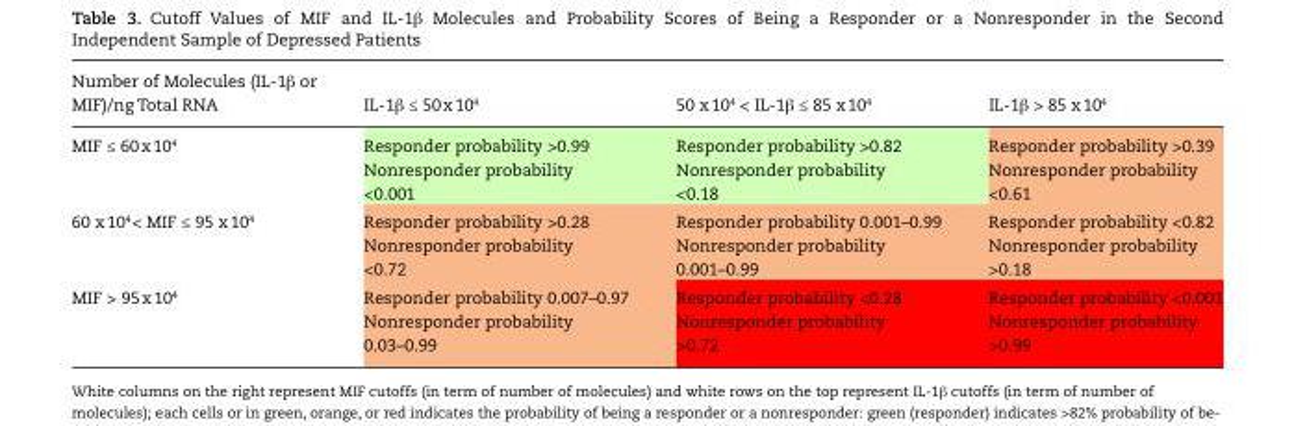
<table><thead><tr><td>Number of Molecules (IL-1β or MIF)/ng Total RNA</td><td>IL-1β ≤ 50 x 10<sup>4</sup></td><td>50 x 10<sup>4</sup> &lt; IL-1β ≤ 85 x 10<sup>4</sup></td><td>IL-1β &gt; 85 x 10<sup>4</sup></td></tr></thead><tbody><tr><td rowspan="2">MIF ≤ 60 x 10<sup>4</sup></td><td>Responder probability &gt;0.99</td><td>Responder probability &gt;0.82</td><td>Responder probability &gt;0.39</td></tr><tr><td>Nonresponder probability &lt;0.001</td><td>Nonresponder probability &lt;0.18</td><td>Nonresponder probability &lt;0.61</td></tr><tr><td rowspan="2">60 x 10<sup>4</sup> &lt; MIF ≤ 95 x 10<sup>4</sup></td><td>Responder probability &gt;0.28</td><td>Responder probability 0.001–0.99</td><td>Responder probability &lt;0.82</td></tr><tr><td>Nonresponder probability &lt;0.72</td><td>Nonresponder probability 0.001–0.99</td><td>Nonresponder probability &gt;0.18</td></tr><tr><td rowspan="2">MIF &gt; 95 x 10<sup>4</sup></td><td>Responder probability 0.007–0.97</td><td>Responder probability &lt;0.28</td><td>Responder probability &lt;0.001</td></tr><tr><td>Nonresponder probability 0.03–0.99</td><td>Nonresponder probability &gt;0.72</td><td>Nonresponder probability &gt;0.99</td></tr></tbody></table>